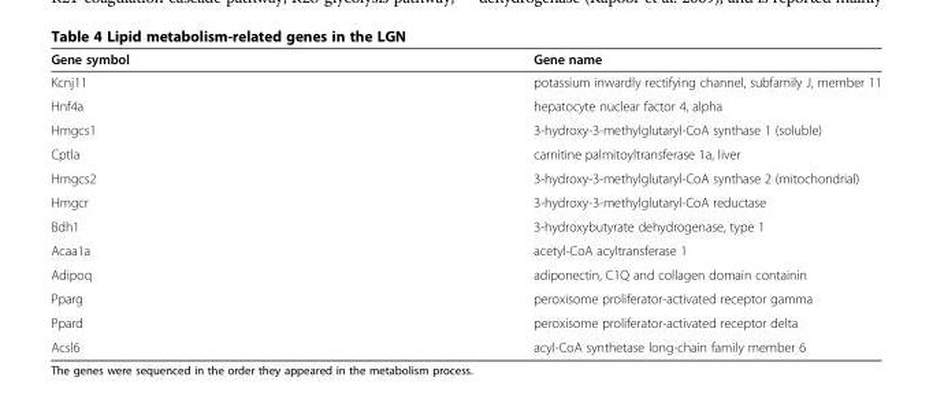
<table><thead><tr><td>Gene symbol</td><td>Gene name</td></tr></thead><tbody><tr><td>Kcnj11</td><td>potassium inwardly rectifying channel, subfamily J, member 11</td></tr><tr><td>Hnf4a</td><td>hepatocyte nuclear factor 4, alpha</td></tr><tr><td>Hmgcs1</td><td>3-hydroxy-3-methylglutaryl-CoA synthase 1 (soluble)</td></tr><tr><td>Cptla</td><td>carnitine palmitoyltransferase 1a, liver</td></tr><tr><td>Hmgcs2</td><td>3-hydroxy-3-methylglutaryl-CoA synthase 2 (mitochondrial)</td></tr><tr><td>Hmgcr</td><td>3-hydroxy-3-methylglutaryl-CoA reductase</td></tr><tr><td>Bdh1</td><td>3-hydroxybutyrate dehydrogenase, type 1</td></tr><tr><td>Acaa1a</td><td>acetyl-CoA acyltransferase 1</td></tr><tr><td>Adipoq</td><td>adiponectin, C1Q and collagen domain containin</td></tr><tr><td>Pparg</td><td>peroxisome proliferator-activated receptor gamma</td></tr><tr><td>Ppard</td><td>peroxisome proliferator-activated receptor delta</td></tr><tr><td>Acsl6</td><td>acyl-CoA synthetase long-chain family member 6</td></tr></tbody></table>